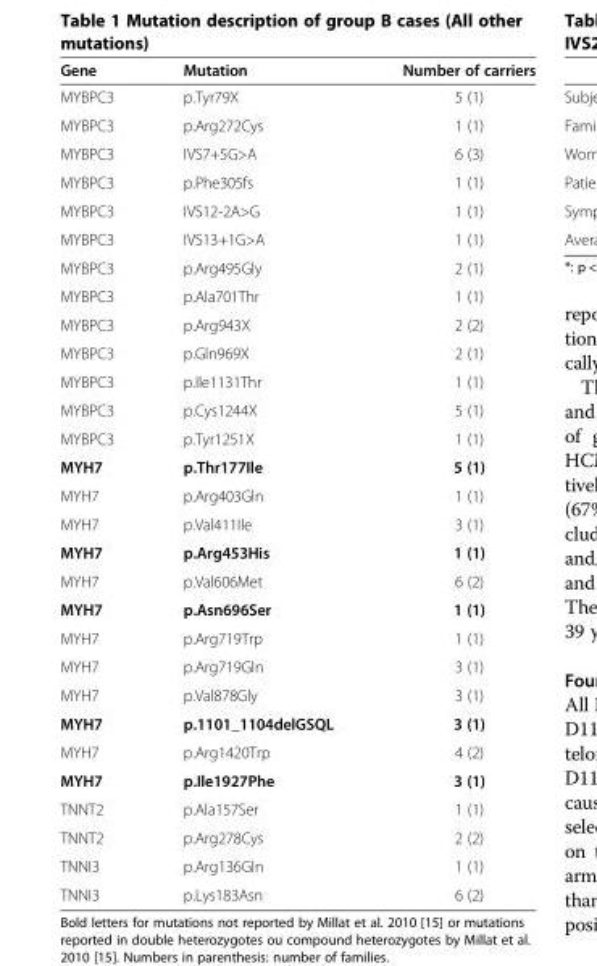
<table><thead><tr><td>Gene</td><td>Mutation</td><td>Number of carriers</td></tr></thead><tbody><tr><td>MYBPC3</td><td>p.Tyr79X</td><td>5 (1)</td></tr><tr><td>MYBPC3</td><td>p.Arg272Cys</td><td>1 (1)</td></tr><tr><td>MYBPC3</td><td>IVS7+5G&gt;A</td><td>6 (3)</td></tr><tr><td>MYBPC3</td><td>p.Phe305fs</td><td>1 (1)</td></tr><tr><td>MYBPC3</td><td>IVS12-2A&gt;G</td><td>1 (1)</td></tr><tr><td>MYBPC3</td><td>IVS13+1G&gt;A</td><td>1 (1)</td></tr><tr><td>MYBPC3</td><td>p.Arg495Gly</td><td>2 (1)</td></tr><tr><td>MYBPC3</td><td>p.Ala701Thr</td><td>1 (1)</td></tr><tr><td>MYBPC3</td><td>p.Arg943X</td><td>2 (2)</td></tr><tr><td>MYBPC3</td><td>p.Gln969X</td><td>2 (1)</td></tr><tr><td>MYBPC3</td><td>p.Ile1131Thr</td><td>1 (1)</td></tr><tr><td>MYBPC3</td><td>p.Cys1244X</td><td>5 (1)</td></tr><tr><td>MYBPC3</td><td>p.Tyr1251X</td><td>1 (1)</td></tr><tr><td>MYH7</td><td>p.Thr177Ile</td><td>5 (1)</td></tr><tr><td>MYH7</td><td>p.Arg403Gln</td><td>1 (1)</td></tr><tr><td>MYH7</td><td>p.Val411Ile</td><td>3 (1)</td></tr><tr><td>MYH7</td><td>p.Arg453His</td><td>1 (1)</td></tr><tr><td>MYH7</td><td>p.Val606Met</td><td>6 (2)</td></tr><tr><td>MYH7</td><td>p.Asn696Ser</td><td>1 (1)</td></tr><tr><td>MYH7</td><td>p.Arg719Trp</td><td>1 (1)</td></tr><tr><td>MYH7</td><td>p.Arg719Gln</td><td>3 (1)</td></tr><tr><td>MYH7</td><td>p.Val878Gly</td><td>3 (1)</td></tr><tr><td>MYH7</td><td>p.1101_1104delGSQL</td><td>3 (1)</td></tr><tr><td>MYH7</td><td>p.Arg1420Trp</td><td>4 (2)</td></tr><tr><td>MYH7</td><td>p.Ile1927Phe</td><td>3 (1)</td></tr><tr><td>TNNT2</td><td>p.Ala157Ser</td><td>1 (1)</td></tr><tr><td>TNNT2</td><td>p.Arg278Cys</td><td>2 (2)</td></tr><tr><td>TNNI3</td><td>p.Arg136Gln</td><td>1 (1)</td></tr><tr><td>TNNI3</td><td>p.Lys183Asn</td><td>6 (2)</td></tr></tbody></table>